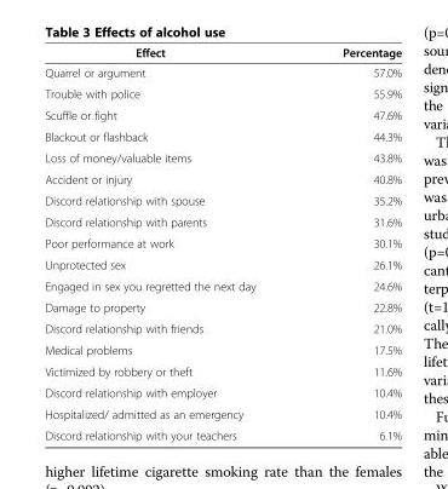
<table><thead><tr><td>Effect</td><td>Percentage</td></tr></thead><tbody><tr><td>Quarrel or argument</td><td>57.0%</td></tr><tr><td>Trouble with police</td><td>55.9%</td></tr><tr><td>Scuffle or fight</td><td>47.6%</td></tr><tr><td>Blackout or flashback</td><td>44.3%</td></tr><tr><td>Loss of money/valuable items</td><td>43.8%</td></tr><tr><td>Accident or injury</td><td>40.8%</td></tr><tr><td>Discord relationship with spouse</td><td>35.2%</td></tr><tr><td>Discord relationship with parents</td><td>31.6%</td></tr><tr><td>Poor performance at work</td><td>30.1%</td></tr><tr><td>Unprotected sex</td><td>26.1%</td></tr><tr><td>Engaged in sex you regretted the next day</td><td>24.6%</td></tr><tr><td>Damage to property</td><td>22.8%</td></tr><tr><td>Discord relationship with friends</td><td>21.0%</td></tr><tr><td>Medical problems</td><td>17.5%</td></tr><tr><td>Victimized by robbery or theft</td><td>11.6%</td></tr><tr><td>Discord relationship with employer</td><td>10.4%</td></tr><tr><td>Hospitalized/ admitted as an emergency</td><td>10.4%</td></tr><tr><td>Discord relationship with your teachers</td><td>6.1%</td></tr></tbody></table>